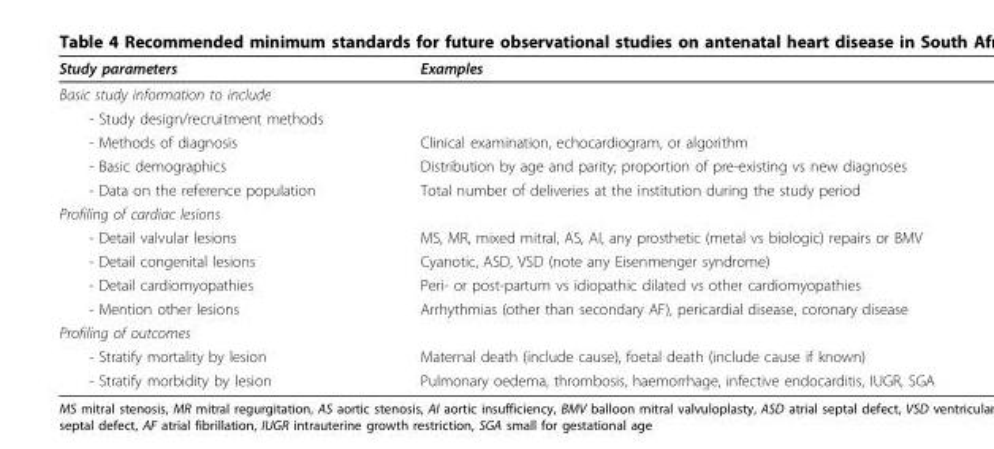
<table><thead><tr><td>Study parameters</td><td>Examples</td></tr></thead><tbody><tr><td colspan="2">Basic study information to include</td></tr><tr><td colspan="2">- Study design/recruitment methods</td></tr><tr><td>- Methods of diagnosis</td><td>Clinical examination, echocardiogram, or algorithm</td></tr><tr><td>- Basic demographics</td><td>Distribution by age and parity; proportion of pre-existing vs new diagnoses</td></tr><tr><td>- Data on the reference population</td><td>Total number of deliveries at the institution during the study period</td></tr><tr><td colspan="2">Profiling of cardiac lesions</td></tr><tr><td>- Detail valvular lesions</td><td>MS, MR, mixed mitral, AS, AI, any prosthetic (metal vs biologic) repairs or BMV</td></tr><tr><td>- Detail congenital lesions</td><td>Cyanotic, ASD, VSD (note any Eisenmenger syndrome)</td></tr><tr><td>- Detail cardiomyopathies</td><td>Peri- or post-partum vs idiopathic dilated vs other cardiomyopathies</td></tr><tr><td>- Mention other lesions</td><td>Arrhythmias (other than secondary AF), pericardial disease, coronary disease</td></tr><tr><td colspan="2">Profiling of outcomes</td></tr><tr><td>- Stratify mortality by lesion</td><td>Maternal death (include cause), foetal death (include cause if known)</td></tr><tr><td>- Stratify morbidity by lesion</td><td>Pulmonary oedema, thrombosis, haemorrhage, infective endocarditis, IUGR, SGA</td></tr></tbody></table>